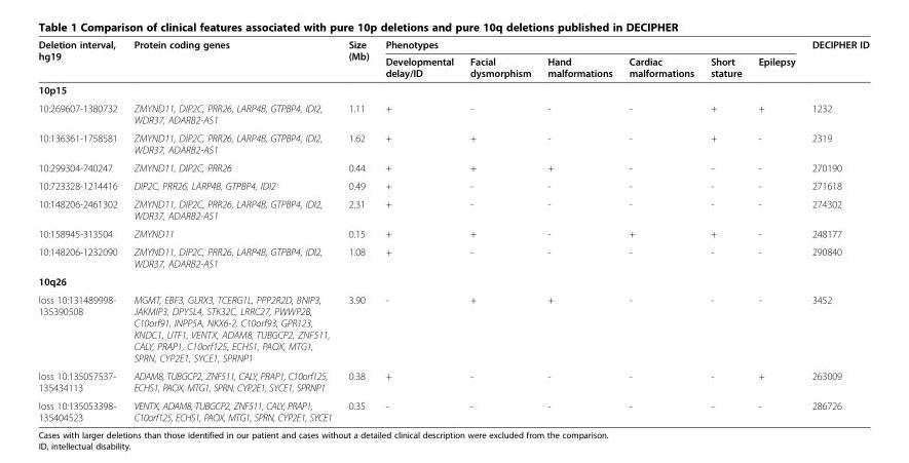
<table><thead><tr><td rowspan="2">Deletion interval, hg19</td><td rowspan="2">Protein coding genes</td><td rowspan="2">Size (Mb)</td><td colspan="6">Phenotypes</td><td rowspan="2">DECIPHER ID</td></tr><tr><td>Developmental delay/ID</td><td>Facial dysmorphism</td><td>Hand malformations</td><td>Cardiac malformations</td><td>Short stature</td><td>Epilepsy</td></tr></thead><tbody><tr><td colspan="10">10p15</td></tr><tr><td>10:269607-1380732</td><td>ZMYND11, DIP2C, PRR26, LARP4B, GTPBP4, IDI2, WDR37, ADARB2-AS1</td><td>1.11</td><td>+</td><td>-</td><td>-</td><td>-</td><td>+</td><td>+</td><td>1232</td></tr><tr><td>10:136361-1758581</td><td>ZMYND11, DIP2C, PRR26, LARP4B, GTPBP4, IDI2, WDR37, ADARB2-AS1</td><td>1.62</td><td>+</td><td>+</td><td>-</td><td>-</td><td>+</td><td>-</td><td>2319</td></tr><tr><td>10:299304-740247</td><td>ZMYND11, DIP2C, PRR26</td><td>0.44</td><td>+</td><td>+</td><td>+</td><td>-</td><td>-</td><td>-</td><td>270190</td></tr><tr><td>10:723328-1214416</td><td>DIP2C, PRR26, LARP4B, GTPBP4, IDI2</td><td>0.49</td><td>+</td><td>-</td><td>-</td><td>-</td><td>-</td><td>-</td><td>271618</td></tr><tr><td>10:148206-2461302</td><td>ZMYND11, DIP2C, PRR26, LARP4B, GTPBP4, IDI2, WDR37, ADARB2-AS1</td><td>2.31</td><td>+</td><td>-</td><td>-</td><td>-</td><td>-</td><td>-</td><td>274302</td></tr><tr><td>10:158945-313504</td><td>ZMYND11</td><td>0.15</td><td>+</td><td>+</td><td>-</td><td>+</td><td>+</td><td>-</td><td>248177</td></tr><tr><td>10:148206-1232090</td><td>ZMYND11, DIP2C, PRR26, LARP4B, GTPBP4, IDI2, WDR37, ADARB2-AS1</td><td>1.08</td><td>+</td><td>-</td><td>-</td><td>-</td><td>-</td><td>-</td><td>290840</td></tr><tr><td colspan="10">10q26</td></tr><tr><td>loss 10:131489998- 135390508</td><td>MGMT, EBF3, GLRX3, TCERG1L, PPP2R2D, BNIP3, JAKMIP3, DPYSL4, STK32C, LRRC27, PWWP2B, C10orf91, INPP5A, NKX6-2, C10orf93, GPR123, KNDC1, UTF1, VENTX, ADAM8, TUBGCP2, ZNF511, CALY, PRAP1, C10orf125, ECHS1, PAOX, MTG1, SPRN, CYP2E1, SYCE1, SPRNP1</td><td>3.90</td><td>-</td><td>+</td><td>+</td><td>-</td><td>-</td><td>-</td><td>3452</td></tr><tr><td>loss 10:135057537- 135434113</td><td>ADAM8, TUBGCP2, ZNF511, CALY, PRAP1, C10orf125, ECHS1, PAOX, MTG1, SPRN, CYP2E1, SYCE1, SPRNP1</td><td>0.38</td><td>+</td><td>-</td><td>-</td><td>-</td><td>-</td><td>+</td><td>263009</td></tr><tr><td>loss 10:135053398- 135404523</td><td>VENTX, ADAM8, TUBGCP2, ZNF511, CALY, PRAP1, C10orf125, ECHS1, PAOX, MTG1, SPRN, CYP2E1, SYCE1</td><td>0.35</td><td>-</td><td>-</td><td>-</td><td>-</td><td>-</td><td>-</td><td>286726</td></tr></tbody></table>